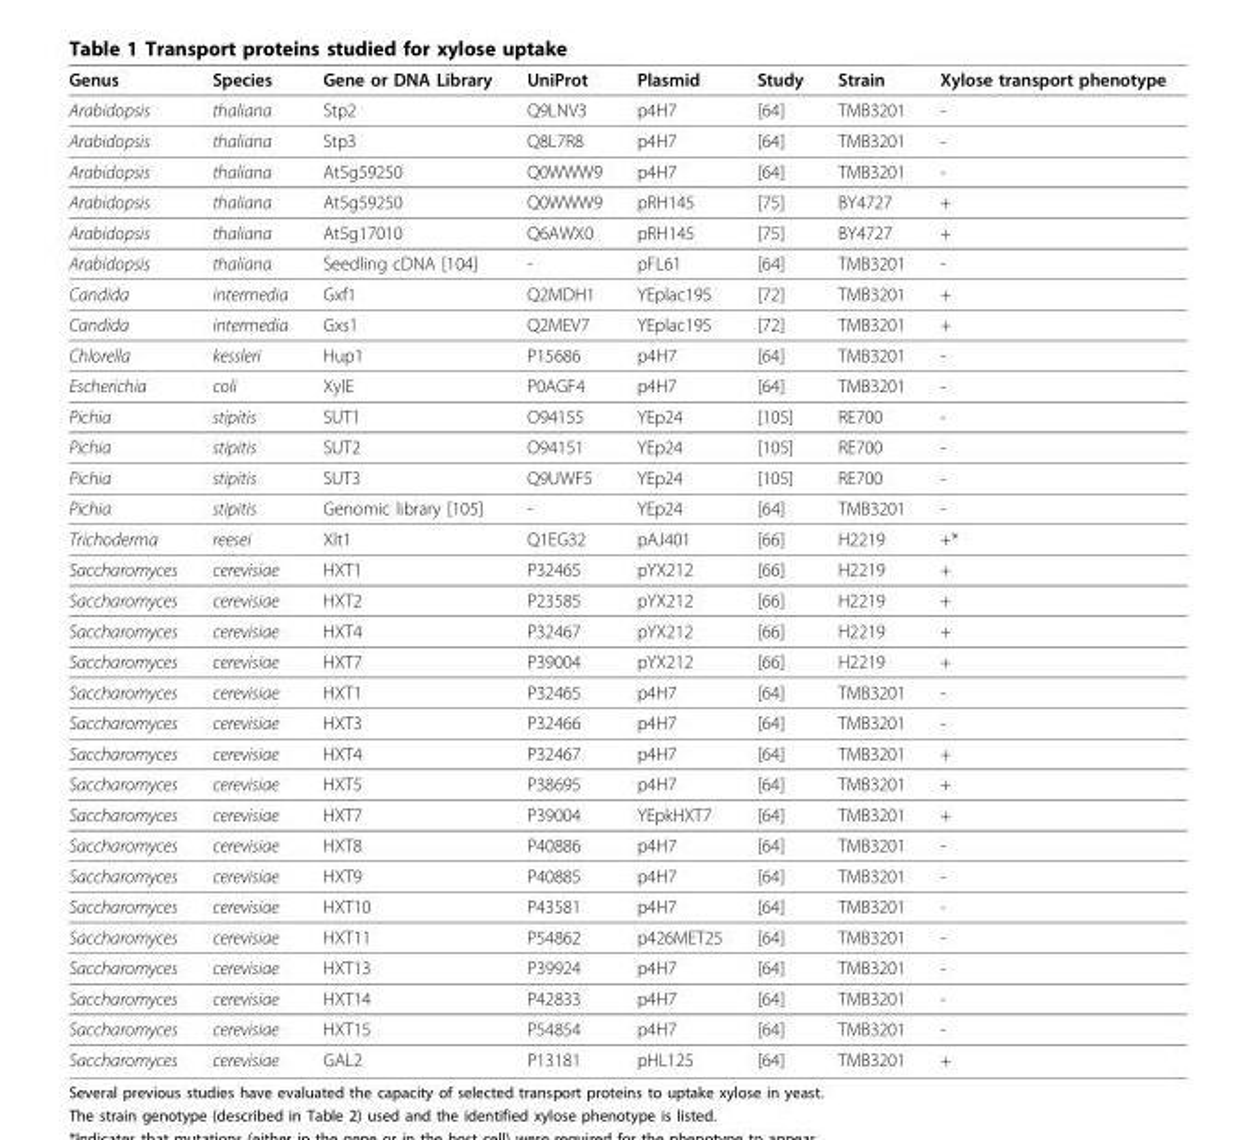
<table><thead><tr><td>Genus</td><td>Species</td><td>Gene or DNA Library</td><td>UniProt</td><td>Plasmid</td><td>Study</td><td>Strain</td><td>Xylose transport phenotype</td></tr></thead><tbody><tr><td>Arabidopsis</td><td>thaliana</td><td>Stp2</td><td>Q9LNV3</td><td>p4H7</td><td>[64]</td><td>TMB3201</td><td>-</td></tr><tr><td>Arabidopsis</td><td>thaliana</td><td>Stp3</td><td>Q8L7R8</td><td>p4H7</td><td>[64]</td><td>TMB3201</td><td>-</td></tr><tr><td>Arabidopsis</td><td>thaliana</td><td>At5g59250</td><td>Q0WWW9</td><td>p4H7</td><td>[64]</td><td>TMB3201</td><td>-</td></tr><tr><td>Arabidopsis</td><td>thaliana</td><td>At5g59250</td><td>Q0WWW9</td><td>pRH145</td><td>[75]</td><td>BY4727</td><td>+</td></tr><tr><td>Arabidopsis</td><td>thaliana</td><td>At5g17010</td><td>Q6AWX0</td><td>pRH145</td><td>[75]</td><td>BY4727</td><td>+</td></tr><tr><td>Arabidopsis</td><td>thaliana</td><td>Seedling cDNA [104]</td><td>-</td><td>pFL61</td><td>[64]</td><td>TMB3201</td><td>-</td></tr><tr><td>Candida</td><td>intermedia</td><td>Gxf1</td><td>Q2MDH1</td><td>YEplac195</td><td>[72]</td><td>TMB3201</td><td>+</td></tr><tr><td>Candida</td><td>intermedia</td><td>Gxs1</td><td>Q2MEV7</td><td>YEplac195</td><td>[72]</td><td>TMB3201</td><td>+</td></tr><tr><td>Chlorella</td><td>kessleri</td><td>Hup1</td><td>P15686</td><td>p4H7</td><td>[64]</td><td>TMB3201</td><td>-</td></tr><tr><td>Escherichia</td><td>coli</td><td>XylE</td><td>P0AGF4</td><td>p4H7</td><td>[64]</td><td>TMB3201</td><td>-</td></tr><tr><td>Pichia</td><td>stipitis</td><td>SUT1</td><td>O94155</td><td>YEp24</td><td>[105]</td><td>RE700</td><td>-</td></tr><tr><td>Pichia</td><td>stipitis</td><td>SUT2</td><td>O94151</td><td>YEp24</td><td>[105]</td><td>RE700</td><td>-</td></tr><tr><td>Pichia</td><td>stipitis</td><td>SUT3</td><td>Q9UWF5</td><td>YEp24</td><td>[105]</td><td>RE700</td><td>-</td></tr><tr><td>Pichia</td><td>stipitis</td><td>Genomic library [105]</td><td>-</td><td>YEp24</td><td>[64]</td><td>TMB3201</td><td>-</td></tr><tr><td>Trichoderma</td><td>reesei</td><td>Xlt1</td><td>Q1EG32</td><td>pAJ401</td><td>[66]</td><td>H2219</td><td>+*</td></tr><tr><td>Saccharomyces</td><td>cerevisiae</td><td>HXT1</td><td>P32465</td><td>pYX212</td><td>[66]</td><td>H2219</td><td>+</td></tr><tr><td>Saccharomyces</td><td>cerevisiae</td><td>HXT2</td><td>P23585</td><td>pYX212</td><td>[66]</td><td>H2219</td><td>+</td></tr><tr><td>Saccharomyces</td><td>cerevisiae</td><td>HXT4</td><td>P32467</td><td>pYX212</td><td>[66]</td><td>H2219</td><td>+</td></tr><tr><td>Saccharomyces</td><td>cerevisiae</td><td>HXT7</td><td>P39004</td><td>pYX212</td><td>[66]</td><td>H2219</td><td>+</td></tr><tr><td>Saccharomyces</td><td>cerevisiae</td><td>HXT1</td><td>P32465</td><td>p4H7</td><td>[64]</td><td>TMB3201</td><td>-</td></tr><tr><td>Saccharomyces</td><td>cerevisiae</td><td>HXT3</td><td>P32466</td><td>p4H7</td><td>[64]</td><td>TMB3201</td><td>-</td></tr><tr><td>Saccharomyces</td><td>cerevisiae</td><td>HXT4</td><td>P32467</td><td>p4H7</td><td>[64]</td><td>TMB3201</td><td>+</td></tr><tr><td>Saccharomyces</td><td>cerevisiae</td><td>HXT5</td><td>P38695</td><td>p4H7</td><td>[64]</td><td>TMB3201</td><td>+</td></tr><tr><td>Saccharomyces</td><td>cerevisiae</td><td>HXT7</td><td>P39004</td><td>YEpkHXT7</td><td>[64]</td><td>TMB3201</td><td>+</td></tr><tr><td>Saccharomyces</td><td>cerevisiae</td><td>HXT8</td><td>P40886</td><td>p4H7</td><td>[64]</td><td>TMB3201</td><td>-</td></tr><tr><td>Saccharomyces</td><td>cerevisiae</td><td>HXT9</td><td>P40885</td><td>p4H7</td><td>[64]</td><td>TMB3201</td><td>-</td></tr><tr><td>Saccharomyces</td><td>cerevisiae</td><td>HXT10</td><td>P43581</td><td>p4H7</td><td>[64]</td><td>TMB3201</td><td>-</td></tr><tr><td>Saccharomyces</td><td>cerevisiae</td><td>HXT11</td><td>P54862</td><td>p426MET25</td><td>[64]</td><td>TMB3201</td><td>-</td></tr><tr><td>Saccharomyces</td><td>cerevisiae</td><td>HXT13</td><td>P39924</td><td>p4H7</td><td>[64]</td><td>TMB3201</td><td>-</td></tr><tr><td>Saccharomyces</td><td>cerevisiae</td><td>HXT14</td><td>P42833</td><td>p4H7</td><td>[64]</td><td>TMB3201</td><td>-</td></tr><tr><td>Saccharomyces</td><td>cerevisiae</td><td>HXT15</td><td>P54854</td><td>p4H7</td><td>[64]</td><td>TMB3201</td><td>-</td></tr><tr><td>Saccharomyces</td><td>cerevisiae</td><td>GAL2</td><td>P13181</td><td>pHL125</td><td>[64]</td><td>TMB3201</td><td>+</td></tr></tbody></table>